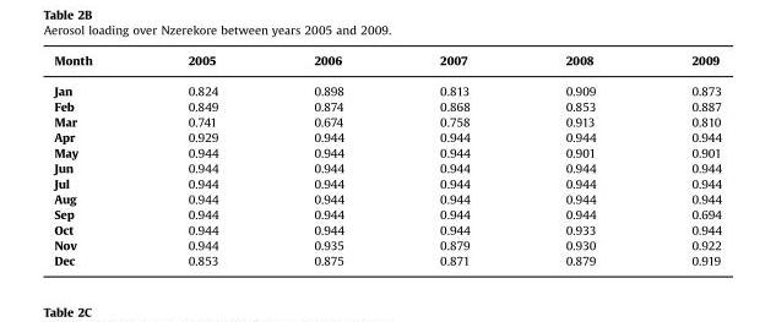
<table><thead><tr><td>Month</td><td>2005</td><td>2006</td><td>2007</td><td>2008</td><td>2009</td></tr></thead><tbody><tr><td>Jan</td><td>0.824</td><td>0.898</td><td>0.813</td><td>0.909</td><td>0.873</td></tr><tr><td>Feb</td><td>0.849</td><td>0.874</td><td>0.868</td><td>0.853</td><td>0.887</td></tr><tr><td>Mar</td><td>0.741</td><td>0.674</td><td>0.758</td><td>0.913</td><td>0.810</td></tr><tr><td>Apr</td><td>0.929</td><td>0.944</td><td>0.944</td><td>0.944</td><td>0.944</td></tr><tr><td>May</td><td>0.944</td><td>0.944</td><td>0.944</td><td>0.901</td><td>0.901</td></tr><tr><td>Jun</td><td>0.944</td><td>0.944</td><td>0.944</td><td>0.944</td><td>0.944</td></tr><tr><td>Jul</td><td>0.944</td><td>0.944</td><td>0.944</td><td>0.944</td><td>0.944</td></tr><tr><td>Aug</td><td>0.944</td><td>0.944</td><td>0.944</td><td>0.944</td><td>0.944</td></tr><tr><td>Sep</td><td>0.944</td><td>0.944</td><td>0.944</td><td>0.944</td><td>0.694</td></tr><tr><td>Oct</td><td>0.944</td><td>0.944</td><td>0.944</td><td>0.933</td><td>0.944</td></tr><tr><td>Nov</td><td>0.944</td><td>0.935</td><td>0.879</td><td>0.930</td><td>0.922</td></tr><tr><td>Dec</td><td>0.853</td><td>0.875</td><td>0.871</td><td>0.879</td><td>0.919</td></tr></tbody></table>